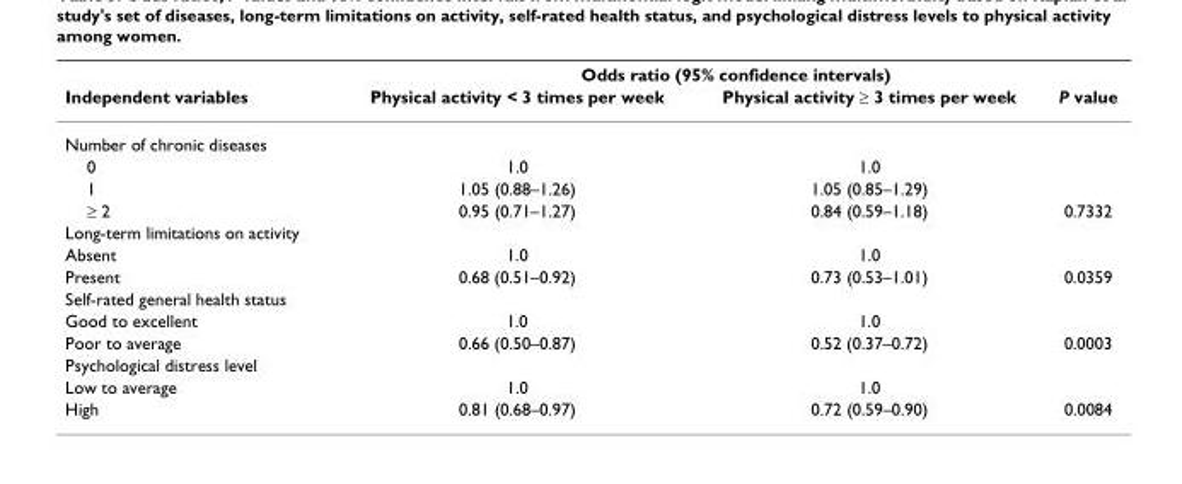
<table><thead><tr><td rowspan="2">Independent variables</td><td colspan="3">Odds ratio (95% confidence intervals)</td></tr><tr><td>Physical activity &lt; 3 times per week</td><td>Physical activity ≥ 3 times per week</td><td>P value</td></tr></thead><tbody><tr><td colspan="4">Number of chronic diseases</td></tr><tr><td>0</td><td>1.0</td><td>1.0</td><td></td></tr><tr><td>1</td><td>1.05 (0.88–1.26)</td><td>1.05 (0.85–1.29)</td><td></td></tr><tr><td>≥ 2</td><td>0.95 (0.71–1.27)</td><td>0.84 (0.59–1.18)</td><td>0.7332</td></tr><tr><td colspan="4">Long-term limitations on activity</td></tr><tr><td>Absent</td><td>1.0</td><td>1.0</td><td></td></tr><tr><td>Present</td><td>0.68 (0.51–0.92)</td><td>0.73 (0.53–1.01)</td><td>0.0359</td></tr><tr><td colspan="4">Self-rated general health status</td></tr><tr><td>Good to excellent</td><td>1.0</td><td>1.0</td><td></td></tr><tr><td>Poor to average</td><td>0.66 (0.50–0.87)</td><td>0.52 (0.37–0.72)</td><td>0.0003</td></tr><tr><td colspan="4">Psychological distress level</td></tr><tr><td>Low to average</td><td>1.0</td><td>1.0</td><td></td></tr><tr><td>High</td><td>0.81 (0.68–0.97)</td><td>0.72 (0.59–0.90)</td><td>0.0084</td></tr></tbody></table>